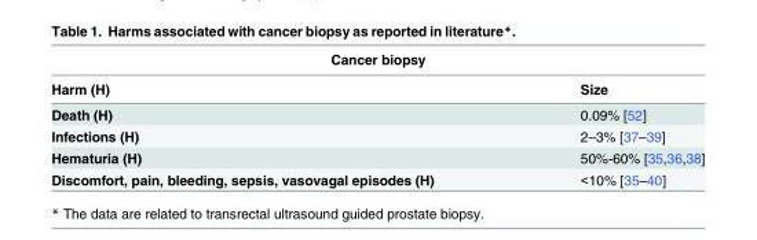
<table><thead><tr><td colspan="2">Cancer biopsy</td></tr><tr><td>Harm (H)</td><td>Size</td></tr></thead><tbody><tr><td>Death (H)</td><td>0.09% [52]</td></tr><tr><td>Infections (H)</td><td>2–3% [37–39]</td></tr><tr><td>Hematuria (H)</td><td>50%-60% [35,36,38]</td></tr><tr><td>Discomfort, pain, bleeding, sepsis, vasovagal episodes (H)</td><td>&lt;10% [35–40]</td></tr></tbody></table>